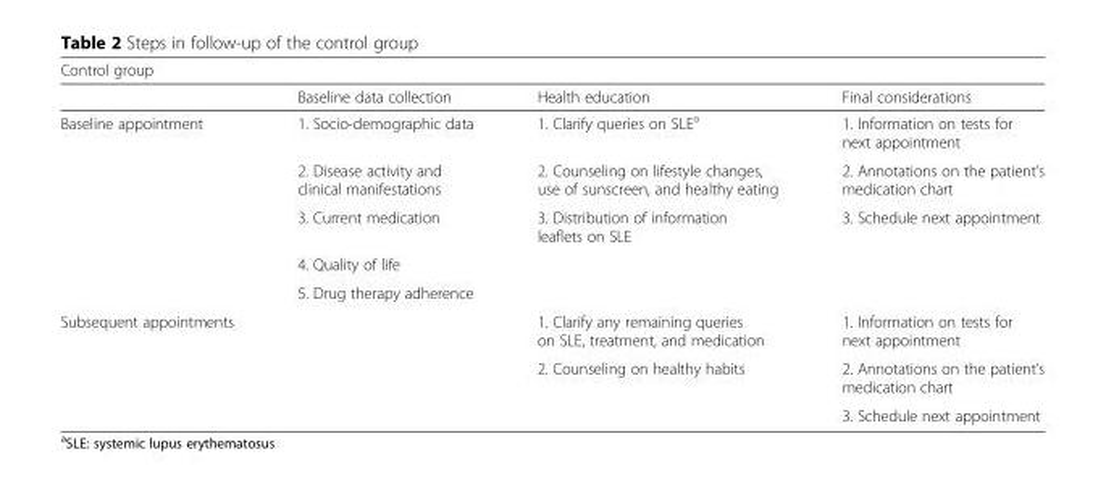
<table><thead><tr><td colspan="4">Control group</td></tr><tr><td></td><td>Baseline data collection</td><td>Health education</td><td>Final considerations</td></tr></thead><tbody><tr><td rowspan="5">Baseline appointment</td><td>1. Socio-demographic data</td><td>1. Clarify queries on SLE<sup>a</sup></td><td>1. Information on tests for next appointment</td></tr><tr><td>2. Disease activity and clinical manifestations</td><td>2. Counseling on lifestyle changes, use of sunscreen, and healthy eating</td><td>2. Annotations on the patient’s medication chart</td></tr><tr><td>3. Current medication</td><td>3. Distribution of information leaflets on SLE</td><td>3. Schedule next appointment</td></tr><tr><td>4. Quality of life</td><td></td><td></td></tr><tr><td>5. Drug therapy adherence</td><td></td><td></td></tr><tr><td rowspan="3">Subsequent appointments</td><td></td><td>1. Clarify any remaining queries on SLE, treatment, and medication</td><td>1. Information on tests for next appointment</td></tr><tr><td></td><td>2. Counseling on healthy habits</td><td>2. Annotations on the patient’s medication chart</td></tr><tr><td></td><td></td><td>3. Schedule next appointment</td></tr></tbody></table>